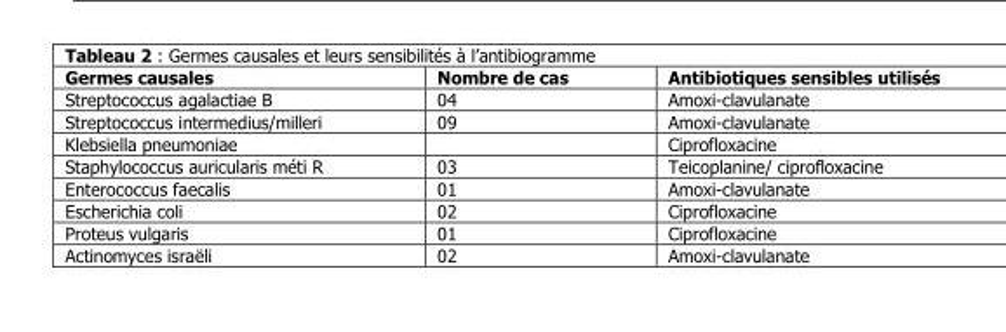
<table><thead><tr><td>Germes causales</td><td>Nombre de cas</td><td>Antibiotiques sensibles utilisés</td></tr></thead><tbody><tr><td>Streptococcus agalactiae B</td><td>04</td><td>Amoxi-clavulanate</td></tr><tr><td>Streptococcus intermedius/milleri</td><td>09</td><td>Amoxi-clavulanate</td></tr><tr><td>Klebsiella pneumoniae</td><td></td><td>Ciprofloxacine</td></tr><tr><td>Staphylococcus auricularis méti R</td><td>03</td><td>Teicoplanine/ ciprofloxacine</td></tr><tr><td>Enterococcus faecalis</td><td>01</td><td>Amoxi-clavulanate</td></tr><tr><td>Escherichia coli</td><td>02</td><td>Ciprofloxacine</td></tr><tr><td>Proteus vulgaris</td><td>01</td><td>Ciprofloxacine</td></tr><tr><td>Actinomyces israëli</td><td>02</td><td>Amoxi-clavulanate</td></tr></tbody></table>